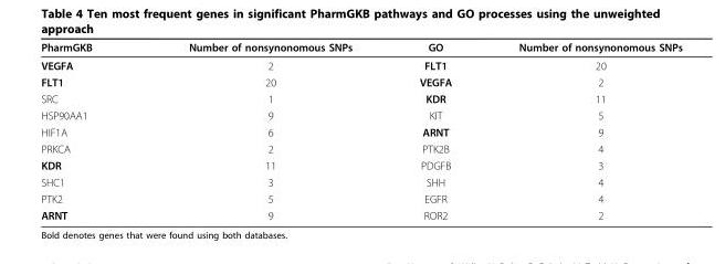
<table><thead><tr><td>PharmGKB</td><td>Number of nonsynonomous SNPs</td><td>GO</td><td>Number of nonsynonomous SNPs</td></tr></thead><tbody><tr><td>VEGFA</td><td>2</td><td>FLT1</td><td>20</td></tr><tr><td>FLT1</td><td>20</td><td>VEGFA</td><td>2</td></tr><tr><td>SRC</td><td>1</td><td>KDR</td><td>11</td></tr><tr><td>HSP90AA1</td><td>9</td><td>KIT</td><td>5</td></tr><tr><td>HIF1A</td><td>6</td><td>ARNT</td><td>9</td></tr><tr><td>PRKCA</td><td>2</td><td>PTK2B</td><td>4</td></tr><tr><td>KDR</td><td>11</td><td>PDGFB</td><td>3</td></tr><tr><td>SHC1</td><td>3</td><td>SHH</td><td>4</td></tr><tr><td>PTK2</td><td>5</td><td>EGFR</td><td>4</td></tr><tr><td>ARNT</td><td>9</td><td>ROR2</td><td>2</td></tr></tbody></table>